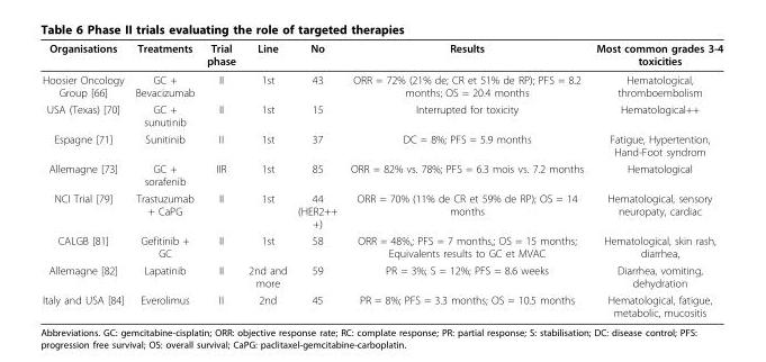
<table><thead><tr><td>Organisations</td><td>Treatments</td><td>Trial phase</td><td>Line</td><td>No</td><td>Results</td><td>Most common grades 3-4 toxicities</td></tr></thead><tbody><tr><td>Hoosier Oncology Group [66]</td><td>GC + Bevacizumab</td><td>II</td><td>1st</td><td>43</td><td>ORR = 72% (21% de; CR et 51% de RP); PFS = 8.2 months; OS = 20.4 months</td><td>Hematological, thromboembolism</td></tr><tr><td>USA (Texas) [70]</td><td>GC + sunutinib</td><td>II</td><td>1st</td><td>15</td><td>Interrupted for toxicity</td><td>Hematological++</td></tr><tr><td>Espagne [71]</td><td>Sunitinib</td><td>II</td><td>1st</td><td>37</td><td>DC = 8%; PFS = 5.9 months</td><td>Fatigue, Hypertention, Hand-Foot syndrom</td></tr><tr><td>Allemagne [73]</td><td>GC + sorafenib</td><td>IIR</td><td>1st</td><td>85</td><td>ORR = 82% vs. 78%; PFS = 6.3 mois vs. 7.2 months</td><td>Hematological</td></tr><tr><td>NCI Trial [79]</td><td>Trastuzumab + CaPG</td><td>II</td><td>1st</td><td>44 (HER2++ +)</td><td>ORR = 70% (11% de CR et 59% de RP); OS = 14 months</td><td>Hematological, sensory neuropaty, cardiac</td></tr><tr><td>CALGB [81]</td><td>Gefitinib + GC</td><td>II</td><td>1st</td><td>58</td><td>ORR = 48%,; PFS = 7 months,; OS = 15 months; Equivalents results to GC et MVAC</td><td>Hematological, skin rash, diarrhea,</td></tr><tr><td>Allemagne [82]</td><td>Lapatinib</td><td>II</td><td>2nd and more</td><td>59</td><td>PR = 3%; S = 12%; PFS = 8.6 weeks</td><td>Diarrhea, vomiting, dehydration</td></tr><tr><td>Italy and USA [84]</td><td>Everolimus</td><td>II</td><td>2nd</td><td>45</td><td>PR = 8%; PFS = 3.3 months; OS = 10.5 months</td><td>Hematological, fatigue, metabolic, mucositis</td></tr></tbody></table>